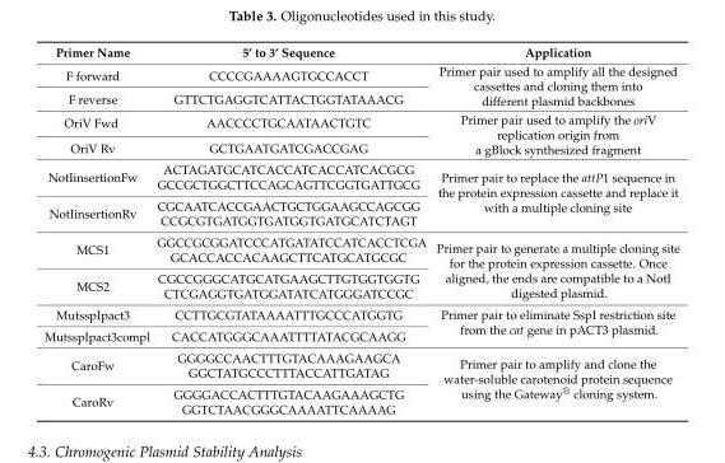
<table><thead><tr><td>Primer Name</td><td>5’ to 3’ Sequence</td><td>Application</td></tr></thead><tbody><tr><td>F forward</td><td>CCCCGAAAAGTGCCACCT</td><td rowspan="2">Primer pair used to amplify all the designed cassettes and cloning them into different plasmid backbones</td></tr><tr><td>F reverse</td><td>GTTCTGAGGTCATTACTGGTATAAACG</td></tr><tr><td>OriV Fwd</td><td>AACCCCTGCAATAACTGTC</td><td rowspan="2">Primer pair used to amplify the oriV replication origin from a gBlock synthesized fragment</td></tr><tr><td>OriV Rv</td><td>GCTGAATGATCGACCGAG</td></tr><tr><td>NotIinsertionFw</td><td>ACTAGATGCATCACCATCACCATCACGCG GCCGCTGGCTTCCAGCAGTTCGGTGATTGCG</td><td rowspan="2">Primer pair to replace the attP1 sequence in the protein expression cassette and replace it with a multiple cloning site</td></tr><tr><td>NotIinsertionRv</td><td>CGCAATCACCGAACTGCTGGAAGCCAGCGG CCGCGTGATGGTGATGGTGATGCATCTAGT</td></tr><tr><td>MCS1</td><td>GGCCGCGGATCCCATGATATCCATCACCTCGA GCACCACCACAAGCTTCATGCATGCGC</td><td rowspan="2">Primer pair to generate a multiple cloning site for the protein expression cassette. Once aligned, the ends are compatible to a NotI digested plasmid.</td></tr><tr><td>MCS2</td><td>CGCCGGGCATGCATGAAGCTTGTGGTGGTG CTCGAGGTGATGGATATCATGGGATCCGC</td></tr><tr><td>MutsspIpact3</td><td>CCTTGCGTATAAAATTTGCCCATGGTG</td><td rowspan="2">Primer pair to eliminate SspI restriction site from the cat gene in pACT3 plasmid.</td></tr><tr><td>MutsspIpact3compl</td><td>CACCATGGGCAAATTTTATACGCAAGG</td></tr><tr><td>CaroFw</td><td>GGGGCCAACTTTGTACAAAGAAGCA GGCTATGCCCTTTACCATTGATAG</td><td rowspan="2">Primer pair to amplify and clone the water-soluble carotenoid protein sequence using the Gateway<sup>®</sup> cloning system.</td></tr><tr><td>CaroRv</td><td>GGGGACCACTTTGTACAAGAAAGCTG GGTCTAACGGGCAAAATTCAAAAG</td></tr></tbody></table>